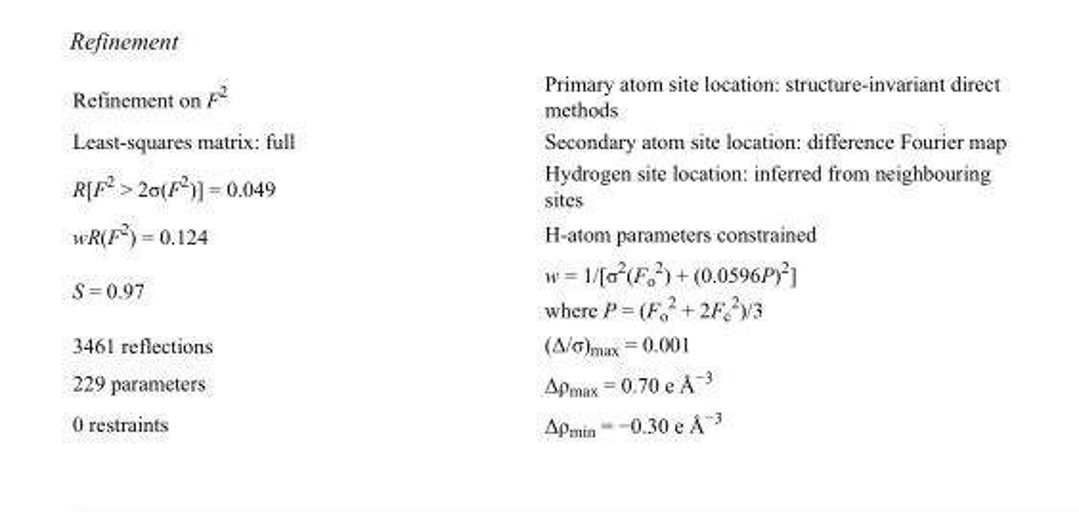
<table><tbody><tr><td>Refinement on F<sup>2</sup></td><td>Primary atom site location: structure-invariant direct methods</td></tr><tr><td>Least-squares matrix: full</td><td>Secondary atom site location: difference Fourier map</td></tr><tr><td>R[F<sup>2</sup> &gt; 2σ(F<sup>2</sup>)] = 0.049</td><td>Hydrogen site location: inferred from neighbouring sites</td></tr><tr><td>wR(F<sup>2</sup>) = 0.124</td><td>H-atom parameters constrained</td></tr><tr><td>S = 0.97</td><td>w = 1/[σ<sup>2</sup>(F<sub>o</sub> <sup>2</sup>) + (0.0596P)<sup>2</sup>] where P = (F<sub>o</sub> <sup>2</sup> + 2F<sub>c</sub> <sup>2</sup>)/3</td></tr><tr><td>3461 reflections</td><td>(Δ/σ)<sub>max</sub> = 0.001</td></tr><tr><td>229 parameters</td><td>Δρ<sub>max</sub> = 0.70 e Å<sup>−3</sup></td></tr><tr><td>0 restraints</td><td>Δρ<sub>min</sub> = −0.30 e Å<sup>−3</sup></td></tr></tbody></table>